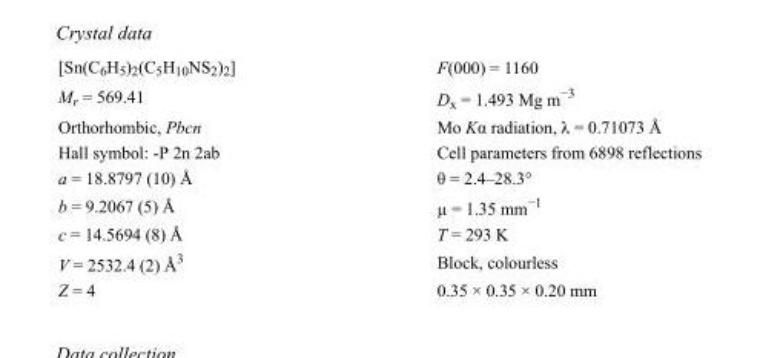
<table><tbody><tr><td>[Sn(C<sub>6</sub>H<sub>5</sub>)<sub>2</sub>(C<sub>5</sub>H<sub>10</sub>NS<sub>2</sub>)<sub>2</sub>]</td><td>F(000) = 1160</td></tr><tr><td>M<sub>r</sub> = 569.41</td><td>D<sub>x</sub> = 1.493 Mg m<sup>−3</sup></td></tr><tr><td>Orthorhombic, Pbcn</td><td>Mo Kα radiation, λ = 0.71073 Å</td></tr><tr><td>Hall symbol: -P 2n 2ab</td><td>Cell parameters from 6898 reflections</td></tr><tr><td>a = 18.8797 (10) Å</td><td>θ = 2.4–28.3°</td></tr><tr><td>b = 9.2067 (5) Å</td><td>µ = 1.35 mm<sup>−1</sup></td></tr><tr><td>c = 14.5694 (8) Å</td><td>T = 293 K</td></tr><tr><td>V = 2532.4 (2) Å<sup>3</sup></td><td>Block, colourless</td></tr><tr><td>Z = 4</td><td>0.35 × 0.35 × 0.20 mm</td></tr></tbody></table>